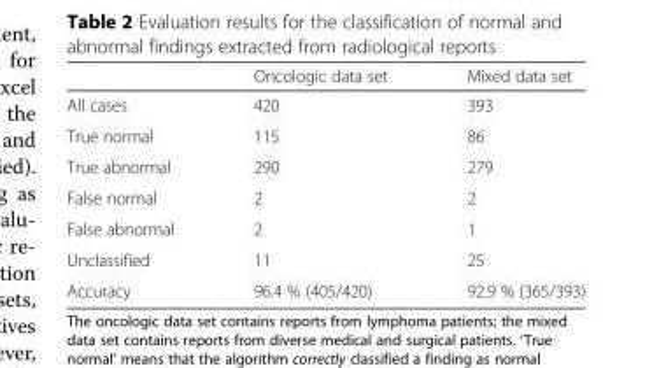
<table><thead><tr><td></td><td>Oncologic data set</td><td>Mixed data set</td></tr></thead><tbody><tr><td>All cases</td><td>420</td><td>393</td></tr><tr><td>True normal</td><td>115</td><td>86</td></tr><tr><td>True abnormal</td><td>290</td><td>279</td></tr><tr><td>False normal</td><td>2</td><td>2</td></tr><tr><td>False abnormal</td><td>2</td><td>1</td></tr><tr><td>Unclassified</td><td>11</td><td>25</td></tr><tr><td>Accuracy</td><td>96.4 % (405/420)</td><td>92.9 % (365/393)</td></tr></tbody></table>